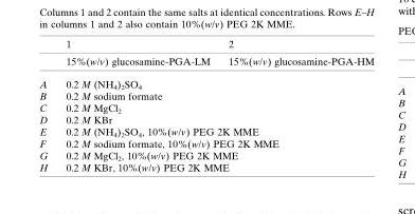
<table><thead><tr><td rowspan="2"></td><td rowspan="2">1 15%(w/v) glucosamine-PGA-LM</td><td rowspan="2">2 15%(w/v) glucosamine-PGA-HM</td></tr><tr></tr></thead><tbody><tr><td>A</td><td colspan="2">0.2 M (NH<sub>4</sub>)<sub>2</sub>SO<sub>4</sub></td></tr><tr><td>B</td><td colspan="2">0.2 M sodium formate</td></tr><tr><td>C</td><td colspan="2">0.2 M MgCl<sub>2</sub></td></tr><tr><td>D</td><td colspan="2">0.2 M KBr</td></tr><tr><td>E</td><td colspan="2">0.2 M (NH<sub>4</sub>)<sub>2</sub>SO<sub>4</sub>, 10%(w/v) PEG 2K MME</td></tr><tr><td>F</td><td colspan="2">0.2 M sodium formate, 10%(w/v) PEG 2K MME</td></tr><tr><td>G</td><td colspan="2">0.2 M MgCl<sub>2</sub>, 10%(w/v) PEG 2K MME</td></tr><tr><td>H</td><td colspan="2">0.2 M KBr, 10%(w/v) PEG 2K MME</td></tr></tbody></table>